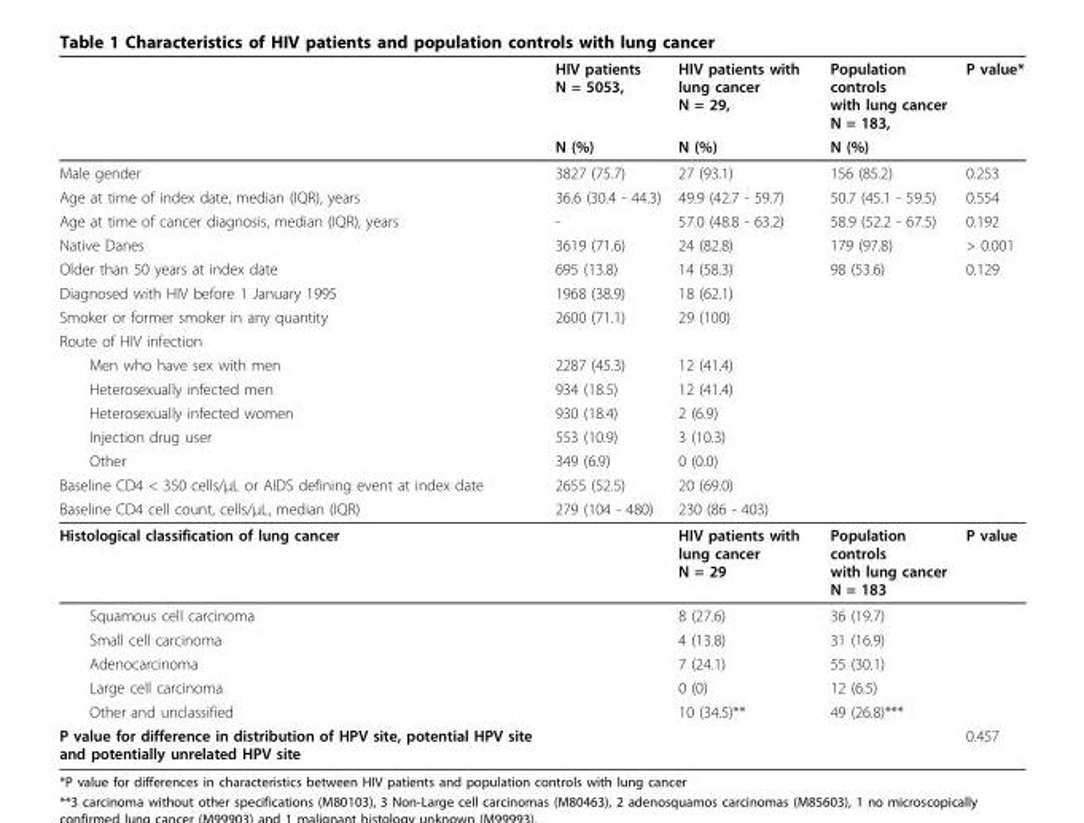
<table><thead><tr><td rowspan="2"></td><td rowspan="2">HIV patients N = 5053, N (%)</td><td rowspan="2">HIV patients with lung cancer N = 29, N (%)</td><td rowspan="2">Population controls with lung cancer N = 183, N (%)</td><td rowspan="2">P value*</td></tr><tr></tr></thead><tbody><tr><td>Male gender</td><td>3827 (75.7)</td><td>27 (93.1)</td><td>156 (85.2)</td><td>0.253</td></tr><tr><td>Age at time of index date, median (IQR), years</td><td>36.6 (30.4 - 44.3)</td><td>49.9 (42.7 - 59.7)</td><td>50.7 (45.1 - 59.5)</td><td>0.554</td></tr><tr><td>Age at time of cancer diagnosis, median (IQR), years</td><td>-</td><td>57.0 (48.8 - 63.2)</td><td>58.9 (52.2 - 67.5)</td><td>0.192</td></tr><tr><td>Native Danes</td><td>3619 (71.6)</td><td>24 (82.8)</td><td>179 (97.8)</td><td>&gt; 0.001</td></tr><tr><td>Older than 50 years at index date</td><td>695 (13.8)</td><td>14 (58.3)</td><td>98 (53.6)</td><td>0.129</td></tr><tr><td>Diagnosed with HIV before 1 January 1995</td><td>1968 (38.9)</td><td>18 (62.1)</td><td></td><td></td></tr><tr><td>Smoker or former smoker in any quantity</td><td>2600 (71.1)</td><td>29 (100)</td><td></td><td></td></tr><tr><td colspan="5">Route of HIV infection</td></tr><tr><td>Men who have sex with men</td><td>2287 (45.3)</td><td>12 (41.4)</td><td></td><td></td></tr><tr><td>Heterosexually infected men</td><td>934 (18.5)</td><td>12 (41.4)</td><td></td><td></td></tr><tr><td>Heterosexually infected women</td><td>930 (18.4)</td><td>2 (6.9)</td><td></td><td></td></tr><tr><td>Injection drug user</td><td>553 (10.9)</td><td>3 (10.3)</td><td></td><td></td></tr><tr><td>Other</td><td>349 (6.9)</td><td>0 (0.0)</td><td></td><td></td></tr><tr><td>Baseline CD4 &lt; 350 cells/μL or AIDS defining event at index date</td><td>2655 (52.5)</td><td>20 (69.0)</td><td></td><td></td></tr><tr><td>Baseline CD4 cell count, cells/μL, median (IQR)</td><td>279 (104 - 480)</td><td>230 (86 - 403)</td><td></td><td></td></tr><tr><td>Histological classification of lung cancer</td><td></td><td>HIV patients with lung cancer N = 29</td><td>Population controls with lung cancer N = 183</td><td>P value</td></tr><tr><td>Squamous cell carcinoma</td><td></td><td>8 (27.6)</td><td>36 (19.7)</td><td></td></tr><tr><td>Small cell carcinoma</td><td></td><td>4 (13.8)</td><td>31 (16.9)</td><td></td></tr><tr><td>Adenocarcinoma</td><td></td><td>7 (24.1)</td><td>55 (30.1)</td><td></td></tr><tr><td>Large cell carcinoma</td><td></td><td>0 (0)</td><td>12 (6.5)</td><td></td></tr><tr><td>Other and unclassified</td><td></td><td>10 (34.5)**</td><td>49 (26.8)***</td><td></td></tr><tr><td>P value for difference in distribution of HPV site, potential HPV site and potentially unrelated HPV site</td><td></td><td></td><td></td><td>0.457</td></tr></tbody></table>